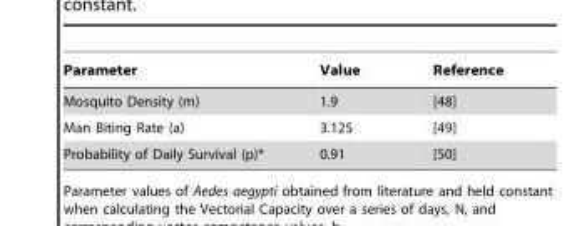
<table><thead><tr><td>Parameter</td><td>Value</td><td>Reference</td></tr></thead><tbody><tr><td>Mosquito Density (m)</td><td>1.9</td><td>[48]</td></tr><tr><td>Man Biting Rate (a)</td><td>3.125</td><td>[49]</td></tr><tr><td>Probability of Daily Survival (p)*</td><td>0.91</td><td>[50]</td></tr></tbody></table>